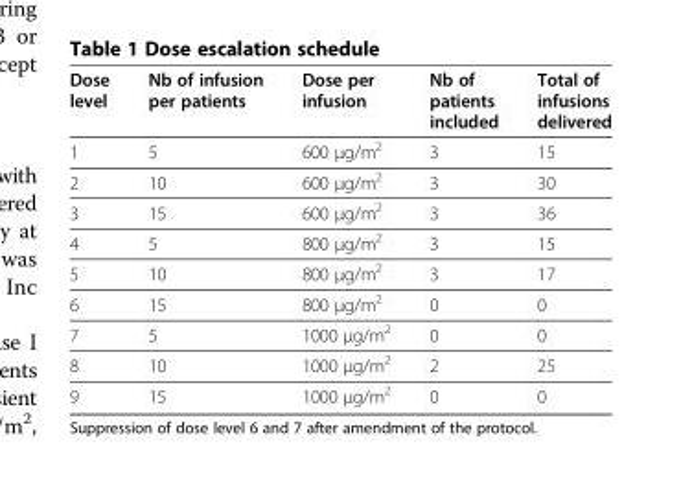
<table><thead><tr><td>Dose level</td><td>Nb of infusion per patients</td><td>Dose per infusion</td><td>Nb of patients included</td><td>Total of infusions delivered</td></tr></thead><tbody><tr><td>1</td><td>5</td><td>600 μg/m<sup>2</sup></td><td>3</td><td>15</td></tr><tr><td>2</td><td>10</td><td>600 μg/m<sup>2</sup></td><td>3</td><td>30</td></tr><tr><td>3</td><td>15</td><td>600 μg/m<sup>2</sup></td><td>3</td><td>36</td></tr><tr><td>4</td><td>5</td><td>800 μg/m<sup>2</sup></td><td>3</td><td>15</td></tr><tr><td>5</td><td>10</td><td>800 μg/m<sup>2</sup></td><td>3</td><td>17</td></tr><tr><td>6</td><td>15</td><td>800 μg/m<sup>2</sup></td><td>0</td><td>0</td></tr><tr><td>7</td><td>5</td><td>1000 μg/m<sup>2</sup></td><td>0</td><td>0</td></tr><tr><td>8</td><td>10</td><td>1000 μg/m<sup>2</sup></td><td>2</td><td>25</td></tr><tr><td>9</td><td>15</td><td>1000 μg/m<sup>2</sup></td><td>0</td><td>0</td></tr></tbody></table>